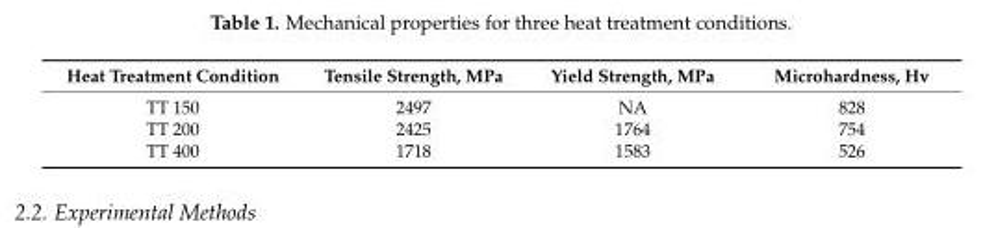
<table><thead><tr><td>Heat Treatment Condition</td><td>Tensile Strength, MPa</td><td>Yield Strength, MPa</td><td>Microhardness, Hv</td></tr></thead><tbody><tr><td>TT 150</td><td>2497</td><td>NA</td><td>828</td></tr><tr><td>TT 200</td><td>2425</td><td>1764</td><td>754</td></tr><tr><td>TT 400</td><td>1718</td><td>1583</td><td>526</td></tr></tbody></table>